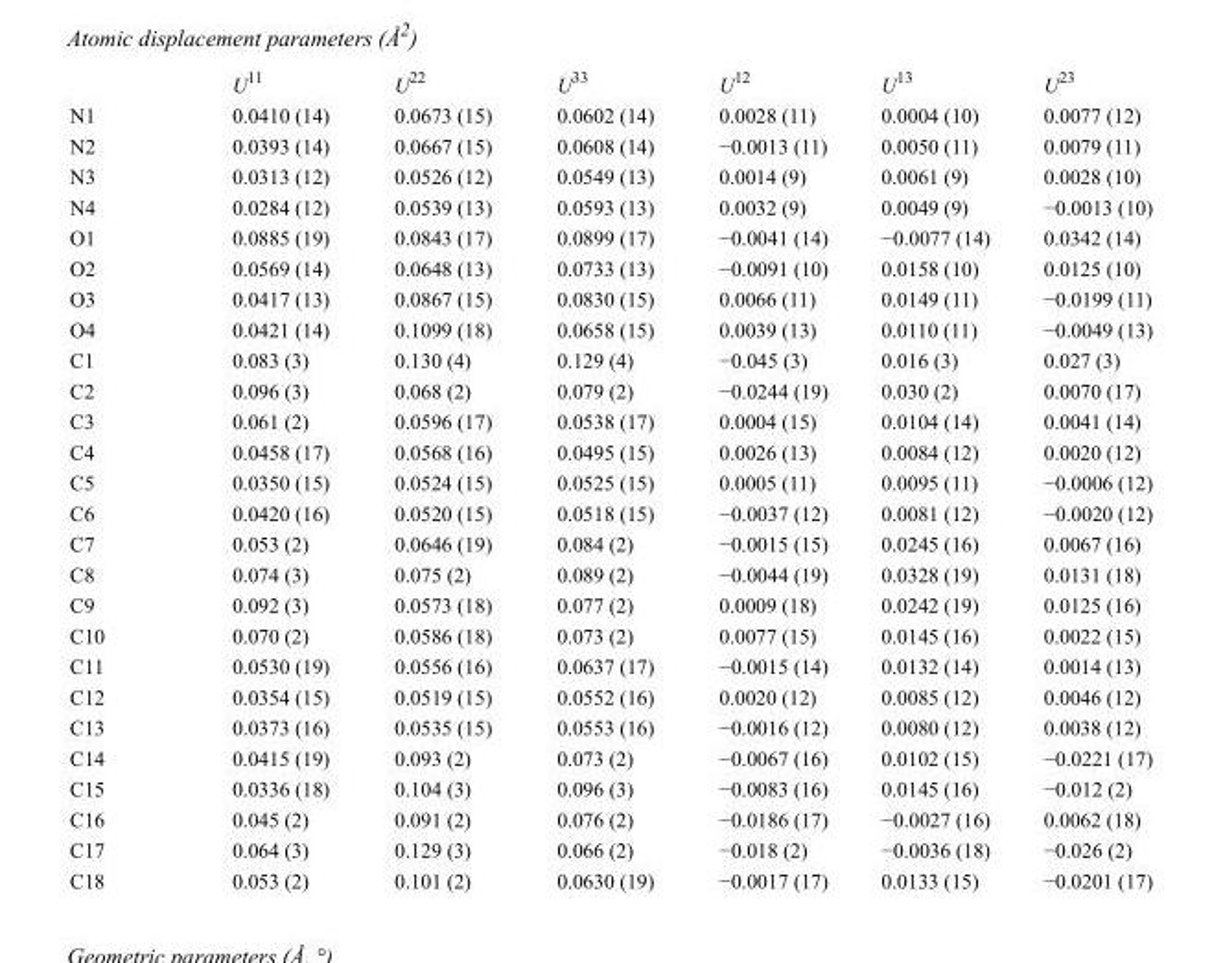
<table><thead><tr><td></td><td>U<sup>11</sup></td><td>U<sup>22</sup></td><td>U<sup>33</sup></td><td>U<sup>12</sup></td><td>U<sup>13</sup></td><td>U<sup>23</sup></td></tr></thead><tbody><tr><td>N1</td><td>0.0410 (14)</td><td>0.0673 (15)</td><td>0.0602 (14)</td><td>0.0028 (11)</td><td>0.0004 (10)</td><td>0.0077 (12)</td></tr><tr><td>N2</td><td>0.0393 (14)</td><td>0.0667 (15)</td><td>0.0608 (14)</td><td>−0.0013 (11)</td><td>0.0050 (11)</td><td>0.0079 (11)</td></tr><tr><td>N3</td><td>0.0313 (12)</td><td>0.0526 (12)</td><td>0.0549 (13)</td><td>0.0014 (9)</td><td>0.0061 (9)</td><td>0.0028 (10)</td></tr><tr><td>N4</td><td>0.0284 (12)</td><td>0.0539 (13)</td><td>0.0593 (13)</td><td>0.0032 (9)</td><td>0.0049 (9)</td><td>−0.0013 (10)</td></tr><tr><td>O1</td><td>0.0885 (19)</td><td>0.0843 (17)</td><td>0.0899 (17)</td><td>−0.0041 (14)</td><td>−0.0077 (14)</td><td>0.0342 (14)</td></tr><tr><td>O2</td><td>0.0569 (14)</td><td>0.0648 (13)</td><td>0.0733 (13)</td><td>−0.0091 (10)</td><td>0.0158 (10)</td><td>0.0125 (10)</td></tr><tr><td>O3</td><td>0.0417 (13)</td><td>0.0867 (15)</td><td>0.0830 (15)</td><td>0.0066 (11)</td><td>0.0149 (11)</td><td>−0.0199 (11)</td></tr><tr><td>O4</td><td>0.0421 (14)</td><td>0.1099 (18)</td><td>0.0658 (15)</td><td>0.0039 (13)</td><td>0.0110 (11)</td><td>−0.0049 (13)</td></tr><tr><td>C1</td><td>0.083 (3)</td><td>0.130 (4)</td><td>0.129 (4)</td><td>−0.045 (3)</td><td>0.016 (3)</td><td>0.027 (3)</td></tr><tr><td>C2</td><td>0.096 (3)</td><td>0.068 (2)</td><td>0.079 (2)</td><td>−0.0244 (19)</td><td>0.030 (2)</td><td>0.0070 (17)</td></tr><tr><td>C3</td><td>0.061 (2)</td><td>0.0596 (17)</td><td>0.0538 (17)</td><td>0.0004 (15)</td><td>0.0104 (14)</td><td>0.0041 (14)</td></tr><tr><td>C4</td><td>0.0458 (17)</td><td>0.0568 (16)</td><td>0.0495 (15)</td><td>0.0026 (13)</td><td>0.0084 (12)</td><td>0.0020 (12)</td></tr><tr><td>C5</td><td>0.0350 (15)</td><td>0.0524 (15)</td><td>0.0525 (15)</td><td>0.0005 (11)</td><td>0.0095 (11)</td><td>−0.0006 (12)</td></tr><tr><td>C6</td><td>0.0420 (16)</td><td>0.0520 (15)</td><td>0.0518 (15)</td><td>−0.0037 (12)</td><td>0.0081 (12)</td><td>−0.0020 (12)</td></tr><tr><td>C7</td><td>0.053 (2)</td><td>0.0646 (19)</td><td>0.084 (2)</td><td>−0.0015 (15)</td><td>0.0245 (16)</td><td>0.0067 (16)</td></tr><tr><td>C8</td><td>0.074 (3)</td><td>0.075 (2)</td><td>0.089 (2)</td><td>−0.0044 (19)</td><td>0.0328 (19)</td><td>0.0131 (18)</td></tr><tr><td>C9</td><td>0.092 (3)</td><td>0.0573 (18)</td><td>0.077 (2)</td><td>0.0009 (18)</td><td>0.0242 (19)</td><td>0.0125 (16)</td></tr><tr><td>C10</td><td>0.070 (2)</td><td>0.0586 (18)</td><td>0.073 (2)</td><td>0.0077 (15)</td><td>0.0145 (16)</td><td>0.0022 (15)</td></tr><tr><td>C11</td><td>0.0530 (19)</td><td>0.0556 (16)</td><td>0.0637 (17)</td><td>−0.0015 (14)</td><td>0.0132 (14)</td><td>0.0014 (13)</td></tr><tr><td>C12</td><td>0.0354 (15)</td><td>0.0519 (15)</td><td>0.0552 (16)</td><td>0.0020 (12)</td><td>0.0085 (12)</td><td>0.0046 (12)</td></tr><tr><td>C13</td><td>0.0373 (16)</td><td>0.0535 (15)</td><td>0.0553 (16)</td><td>−0.0016 (12)</td><td>0.0080 (12)</td><td>0.0038 (12)</td></tr><tr><td>C14</td><td>0.0415 (19)</td><td>0.093 (2)</td><td>0.073 (2)</td><td>−0.0067 (16)</td><td>0.0102 (15)</td><td>−0.0221 (17)</td></tr><tr><td>C15</td><td>0.0336 (18)</td><td>0.104 (3)</td><td>0.096 (3)</td><td>−0.0083 (16)</td><td>0.0145 (16)</td><td>−0.012 (2)</td></tr><tr><td>C16</td><td>0.045 (2)</td><td>0.091 (2)</td><td>0.076 (2)</td><td>−0.0186 (17)</td><td>−0.0027 (16)</td><td>0.0062 (18)</td></tr><tr><td>C17</td><td>0.064 (3)</td><td>0.129 (3)</td><td>0.066 (2)</td><td>−0.018 (2)</td><td>−0.0036 (18)</td><td>−0.026 (2)</td></tr><tr><td>C18</td><td>0.053 (2)</td><td>0.101 (2)</td><td>0.0630 (19)</td><td>−0.0017 (17)</td><td>0.0133 (15)</td><td>−0.0201 (17)</td></tr></tbody></table>